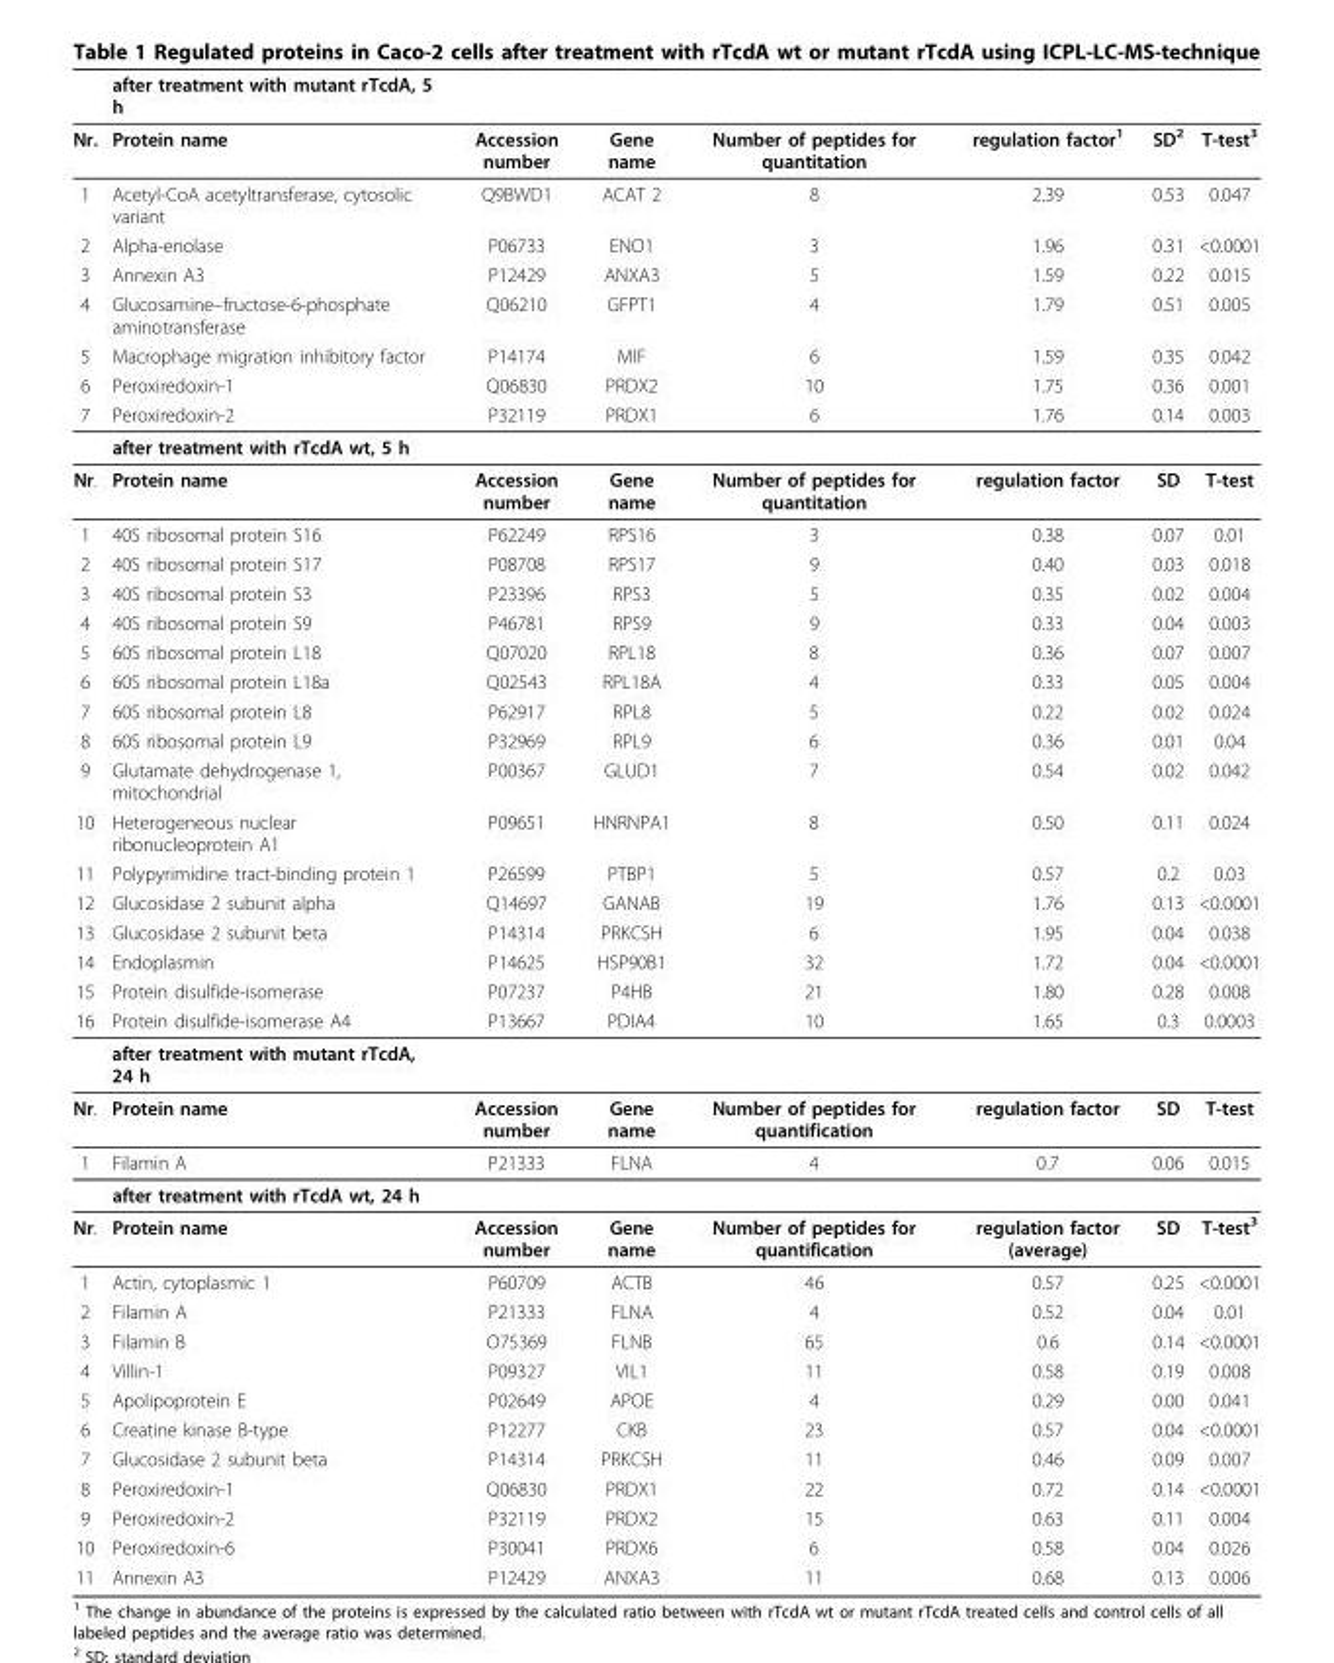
<table><thead><tr><td></td><td>after treatment with mutant rTcdA, 5 h</td><td></td><td></td><td></td><td></td><td></td><td></td></tr></thead><tbody><tr><td>Nr.</td><td>Protein name</td><td>Accession number</td><td>Gene name</td><td>Number of peptides for quantitation</td><td>regulation factor<sup>1</sup></td><td>SD<sup>2</sup></td><td>T-test<sup>3</sup></td></tr><tr><td>1</td><td>Acetyl-CoA acetyltransferase, cytosolic variant</td><td>Q9BWD1</td><td>ACAT 2</td><td>8</td><td>2.39</td><td>0.53</td><td>0.047</td></tr><tr><td>2</td><td>Alpha-enolase</td><td>P06733</td><td>ENO1</td><td>3</td><td>1.96</td><td>0.31</td><td>&lt;0.0001</td></tr><tr><td>3</td><td>Annexin A3</td><td>P12429</td><td>ANXA3</td><td>5</td><td>1.59</td><td>0.22</td><td>0.015</td></tr><tr><td>4</td><td>Glucosamine–fructose-6-phosphate aminotransferase</td><td>Q06210</td><td>GFPT1</td><td>4</td><td>1.79</td><td>0.51</td><td>0.005</td></tr><tr><td>5</td><td>Macrophage migration inhibitory factor</td><td>P14174</td><td>MIF</td><td>6</td><td>1.59</td><td>0.35</td><td>0.042</td></tr><tr><td>6</td><td>Peroxiredoxin-1</td><td>Q06830</td><td>PRDX2</td><td>10</td><td>1.75</td><td>0.36</td><td>0.001</td></tr><tr><td rowspan="2">7</td><td>Peroxiredoxin-2</td><td>P32119</td><td>PRDX1</td><td>6</td><td>1.76</td><td>0.14</td><td>0.003</td></tr><tr><td>after treatment with rTcdA wt, 5 h</td><td></td><td></td><td></td><td></td><td></td><td></td></tr><tr><td>Nr.</td><td>Protein name</td><td>Accession number</td><td>Gene name</td><td>Number of peptides for quantitation</td><td>regulation factor</td><td>SD</td><td>T-test</td></tr><tr><td>1</td><td>40S ribosomal protein S16</td><td>P62249</td><td>RPS16</td><td>3</td><td>0.38</td><td>0.07</td><td>0.01</td></tr><tr><td>2</td><td>40S ribosomal protein S17</td><td>P08708</td><td>RPS17</td><td>9</td><td>0.40</td><td>0.03</td><td>0.018</td></tr><tr><td>3</td><td>40S ribosomal protein S3</td><td>P23396</td><td>RPS3</td><td>5</td><td>0.35</td><td>0.02</td><td>0.004</td></tr><tr><td>4</td><td>40S ribosomal protein S9</td><td>P46781</td><td>RPS9</td><td>9</td><td>0.33</td><td>0.04</td><td>0.003</td></tr><tr><td>5</td><td>60S ribosomal protein L18</td><td>Q07020</td><td>RPL18</td><td>8</td><td>0.36</td><td>0.07</td><td>0.007</td></tr><tr><td>6</td><td>60S ribosomal protein L18a</td><td>Q02543</td><td>RPL18A</td><td>4</td><td>0.33</td><td>0.05</td><td>0.004</td></tr><tr><td>7</td><td>60S ribosomal protein L8</td><td>P62917</td><td>RPL8</td><td>5</td><td>0.22</td><td>0.02</td><td>0.024</td></tr><tr><td>8</td><td>60S ribosomal protein L9</td><td>P32969</td><td>RPL9</td><td>6</td><td>0.36</td><td>0.01</td><td>0.04</td></tr><tr><td>9</td><td>Glutamate dehydrogenase 1, mitochondrial</td><td>P00367</td><td>GLUD1</td><td>7</td><td>0.54</td><td>0.02</td><td>0.042</td></tr><tr><td>10</td><td>Heterogeneous nuclear ribonucleoprotein A1</td><td>P09651</td><td>HNRNPA1</td><td>8</td><td>0.50</td><td>0.11</td><td>0.024</td></tr><tr><td>11</td><td>Polypyrimidine tract-binding protein 1</td><td>P26599</td><td>PTBP1</td><td>5</td><td>0.57</td><td>0.2</td><td>0.03</td></tr><tr><td>12</td><td>Glucosidase 2 subunit alpha</td><td>Q14697</td><td>GANAB</td><td>19</td><td>1.76</td><td>0.13</td><td>&lt;0.0001</td></tr><tr><td>13</td><td>Glucosidase 2 subunit beta</td><td>P14314</td><td>PRKCSH</td><td>6</td><td>1.95</td><td>0.04</td><td>0.038</td></tr><tr><td>14</td><td>Endoplasmin</td><td>P14625</td><td>HSP90B1</td><td>32</td><td>1.72</td><td>0.04</td><td>&lt;0.0001</td></tr><tr><td>15</td><td>Protein disulfide-isomerase</td><td>P07237</td><td>P4HB</td><td>21</td><td>1.80</td><td>0.28</td><td>0.008</td></tr><tr><td rowspan="2">16</td><td>Protein disulfide-isomerase A4</td><td>P13667</td><td>PDIA4</td><td>10</td><td>1.65</td><td>0.3</td><td>0.0003</td></tr><tr><td>after treatment with mutant rTcdA, 24 h</td><td></td><td></td><td></td><td></td><td></td><td></td></tr><tr><td>Nr.</td><td>Protein name</td><td>Accession number</td><td>Gene name</td><td>Number of peptides for quantification</td><td>regulation factor</td><td>SD</td><td>T-test</td></tr><tr><td rowspan="2">1</td><td>Filamin A</td><td>P21333</td><td>FLNA</td><td>4</td><td>0.7</td><td>0.06</td><td>0.015</td></tr><tr><td>after treatment with rTcdA wt, 24 h</td><td></td><td></td><td></td><td></td><td></td><td></td></tr><tr><td>Nr.</td><td>Protein name</td><td>Accession number</td><td>Gene name</td><td>Number of peptides for quantification</td><td>regulation factor (average)</td><td>SD</td><td>T-test<sup>3</sup></td></tr><tr><td>1</td><td>Actin, cytoplasmic 1</td><td>P60709</td><td>ACTB</td><td>46</td><td>0.57</td><td>0.25</td><td>&lt;0.0001</td></tr><tr><td>2</td><td>Filamin A</td><td>P21333</td><td>FLNA</td><td>4</td><td>0.52</td><td>0.04</td><td>0.01</td></tr><tr><td>3</td><td>Filamin B</td><td>O75369</td><td>FLNB</td><td>65</td><td>0.6</td><td>0.14</td><td>&lt;0.0001</td></tr><tr><td>4</td><td>Villin-1</td><td>P09327</td><td>VIL1</td><td>11</td><td>0.58</td><td>0.19</td><td>0.008</td></tr><tr><td>5</td><td>Apolipoprotein E</td><td>P02649</td><td>APOE</td><td>4</td><td>0.29</td><td>0.00</td><td>0.041</td></tr><tr><td>6</td><td>Creatine kinase B-type</td><td>P12277</td><td>CKB</td><td>23</td><td>0.57</td><td>0.04</td><td>&lt;0.0001</td></tr><tr><td>7</td><td>Glucosidase 2 subunit beta</td><td>P14314</td><td>PRKCSH</td><td>11</td><td>0.46</td><td>0.09</td><td>0.007</td></tr><tr><td>8</td><td>Peroxiredoxin-1</td><td>Q06830</td><td>PRDX1</td><td>22</td><td>0.72</td><td>0.14</td><td>&lt;0.0001</td></tr><tr><td>9</td><td>Peroxiredoxin-2</td><td>P32119</td><td>PRDX2</td><td>15</td><td>0.63</td><td>0.11</td><td>0.004</td></tr><tr><td>10</td><td>Peroxiredoxin-6</td><td>P30041</td><td>PRDX6</td><td>6</td><td>0.58</td><td>0.04</td><td>0.026</td></tr><tr><td>11</td><td>Annexin A3</td><td>P12429</td><td>ANXA3</td><td>11</td><td>0.68</td><td>0.13</td><td>0.006</td></tr></tbody></table>